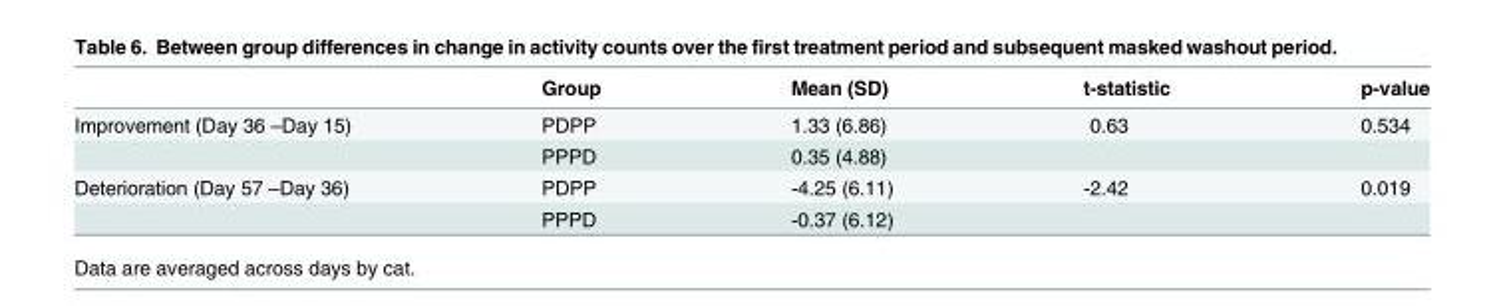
<table><thead><tr><td></td><td>Group</td><td>Mean (SD)</td><td>t-statistic</td><td>p-value</td></tr></thead><tbody><tr><td rowspan="2">Improvement (Day 36 –Day 15)</td><td>PDPP</td><td>1.33 (6.86)</td><td>0.63</td><td>0.534</td></tr><tr><td>PPPD</td><td>0.35 (4.88)</td><td></td><td></td></tr><tr><td rowspan="2">Deterioration (Day 57 –Day 36)</td><td>PDPP</td><td>-4.25 (6.11)</td><td>-2.42</td><td>0.019</td></tr><tr><td>PPPD</td><td>-0.37 (6.12)</td><td></td><td></td></tr></tbody></table>